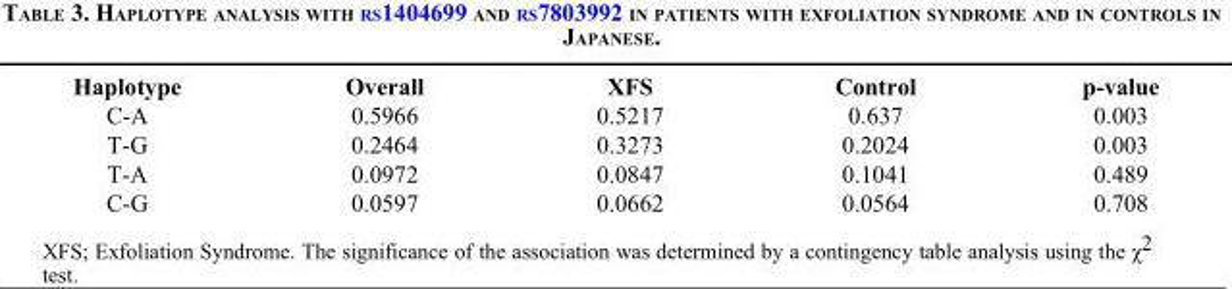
<table><thead><tr><td>Haplotype</td><td>Overall</td><td>XFS</td><td>Control</td><td>p-value</td></tr></thead><tbody><tr><td>C-A</td><td>0.5966</td><td>0.5217</td><td>0.637</td><td>0.003</td></tr><tr><td>T-G</td><td>0.2464</td><td>0.3273</td><td>0.2024</td><td>0.003</td></tr><tr><td>T-A</td><td>0.0972</td><td>0.0847</td><td>0.1041</td><td>0.489</td></tr><tr><td>C-G</td><td>0.0597</td><td>0.0662</td><td>0.0564</td><td>0.708</td></tr></tbody></table>